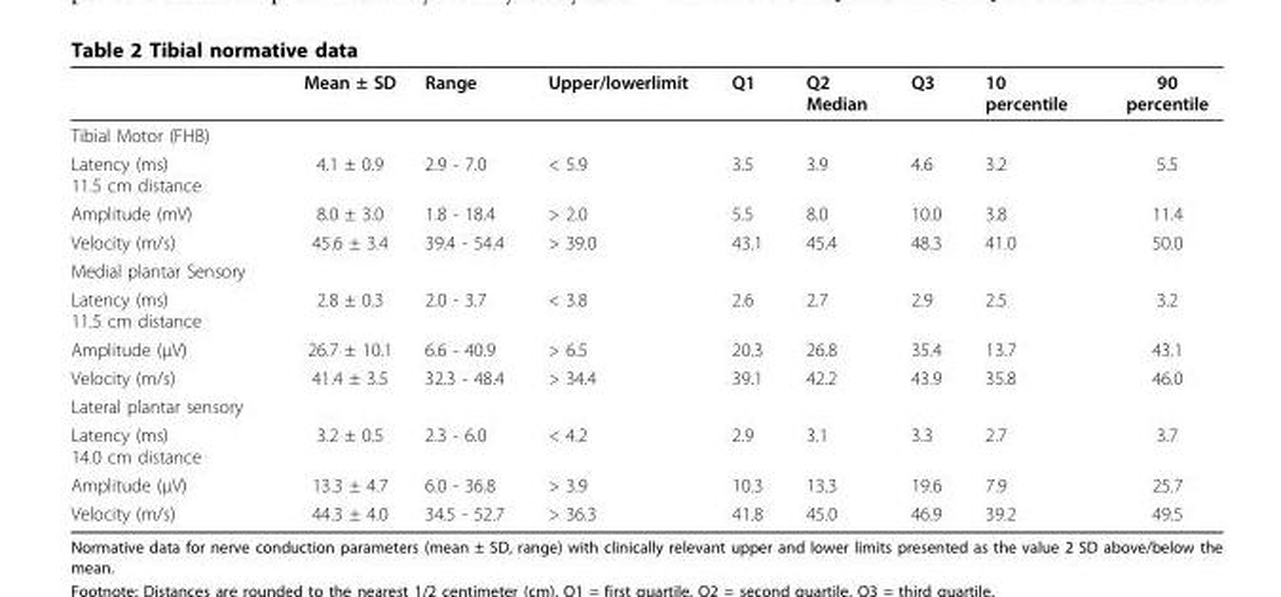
<table><thead><tr><td></td><td>Mean ± SD</td><td>Range</td><td>Upper/lowerlimit</td><td>Q1</td><td>Q2 Median</td><td>Q3</td><td>10 percentile</td><td>90 percentile</td></tr></thead><tbody><tr><td colspan="9">Tibial Motor (FHB)</td></tr><tr><td>Latency (ms) 11.5 cm distance</td><td>4.1 ± 0.9</td><td>2.9 - 7.0</td><td>&lt; 5.9</td><td>3.5</td><td>3.9</td><td>4.6</td><td>3.2</td><td>5.5</td></tr><tr><td>Amplitude (mV)</td><td>8.0 ± 3.0</td><td>1.8 - 18.4</td><td>&gt; 2.0</td><td>5.5</td><td>8.0</td><td>10.0</td><td>3.8</td><td>11.4</td></tr><tr><td>Velocity (m/s)</td><td>45.6 ± 3.4</td><td>39.4 - 54.4</td><td>&gt; 39.0</td><td>43.1</td><td>45.4</td><td>48.3</td><td>41.0</td><td>50.0</td></tr><tr><td colspan="9">Medial plantar Sensory</td></tr><tr><td>Latency (ms) 11.5 cm distance</td><td>2.8 ± 0.3</td><td>2.0 - 3.7</td><td>&lt; 3.8</td><td>2.6</td><td>2.7</td><td>2.9</td><td>2.5</td><td>3.2</td></tr><tr><td>Amplitude (μV)</td><td>26.7 ± 10.1</td><td>6.6 - 40.9</td><td>&gt; 6.5</td><td>20.3</td><td>26.8</td><td>35.4</td><td>13.7</td><td>43.1</td></tr><tr><td>Velocity (m/s)</td><td>41.4 ± 3.5</td><td>32.3 - 48.4</td><td>&gt; 34.4</td><td>39.1</td><td>42.2</td><td>43.9</td><td>35.8</td><td>46.0</td></tr><tr><td colspan="9">Lateral plantar sensory</td></tr><tr><td>Latency (ms) 14.0 cm distance</td><td>3.2 ± 0.5</td><td>2.3 - 6.0</td><td>&lt; 4.2</td><td>2.9</td><td>3.1</td><td>3.3</td><td>2.7</td><td>3.7</td></tr><tr><td>Amplitude (μV)</td><td>13.3 ± 4.7</td><td>6.0 - 36.8</td><td>&gt; 3.9</td><td>10.3</td><td>13.3</td><td>19.6</td><td>7.9</td><td>25.7</td></tr><tr><td>Velocity (m/s)</td><td>44.3 ± 4.0</td><td>34.5 - 52.7</td><td>&gt; 36.3</td><td>41.8</td><td>45.0</td><td>46.9</td><td>39.2</td><td>49.5</td></tr></tbody></table>